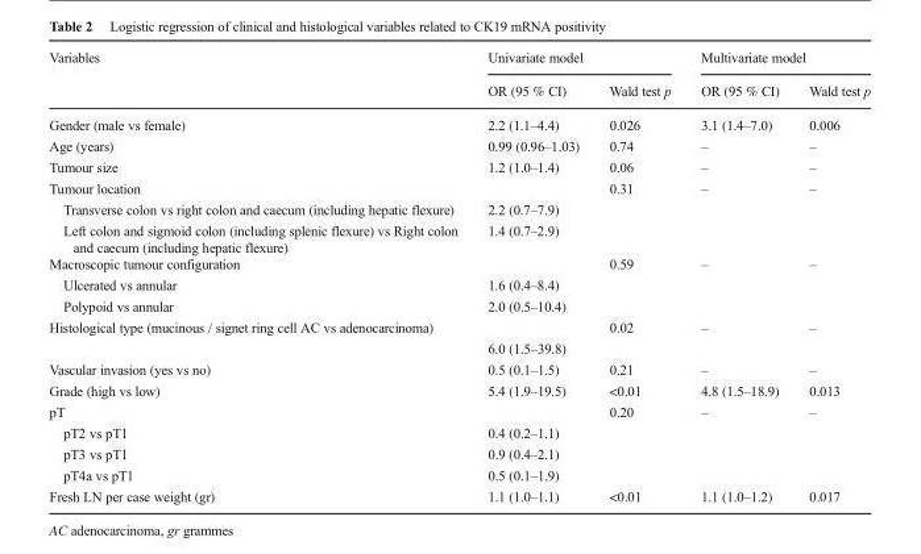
<table><thead><tr><td rowspan="2">Variables</td><td colspan="2">Univariate model</td><td colspan="2">Multivariate model</td></tr><tr><td>OR (95 % CI)</td><td>Wald test p</td><td>OR (95 % CI)</td><td>Wald test p</td></tr></thead><tbody><tr><td>Gender (male vs female)</td><td>2.2 (1.1–4.4)</td><td>0.026</td><td>3.1 (1.4–7.0)</td><td>0.006</td></tr><tr><td>Age (years)</td><td>0.99 (0.96–1.03)</td><td>0.74</td><td>–</td><td>–</td></tr><tr><td>Tumour size</td><td>1.2 (1.0–1.4)</td><td>0.06</td><td>–</td><td>–</td></tr><tr><td colspan="2">Tumour location</td><td>0.31</td><td>–</td><td>–</td></tr><tr><td>Transverse colon vs right colon and caecum (including hepatic flexure)</td><td>2.2 (0.7–7.9)</td><td></td><td></td><td></td></tr><tr><td>Left colon and sigmoid colon (including splenic flexure) vs Right colon and caecum (including hepatic flexure)</td><td>1.4 (0.7–2.9)</td><td></td><td></td><td></td></tr><tr><td colspan="2">Macroscopic tumour configuration</td><td>0.59</td><td>–</td><td>–</td></tr><tr><td>Ulcerated vs annular</td><td>1.6 (0.4–8.4)</td><td></td><td></td><td></td></tr><tr><td>Polypoid vs annular</td><td>2.0 (0.5–10.4)</td><td></td><td></td><td></td></tr><tr><td colspan="2">Histological type (mucinous / signet ring cell AC vs adenocarcinoma)</td><td>0.02</td><td>–</td><td>–</td></tr><tr><td></td><td>6.0 (1.5–39.8)</td><td></td><td></td><td></td></tr><tr><td>Vascular invasion (yes vs no)</td><td>0.5 (0.1–1.5)</td><td>0.21</td><td>–</td><td>–</td></tr><tr><td>Grade (high vs low)</td><td>5.4 (1.9–19.5)</td><td>&lt;0.01</td><td>4.8 (1.5–18.9)</td><td>0.013</td></tr><tr><td>pT</td><td></td><td>0.20</td><td>–</td><td>–</td></tr><tr><td>pT2 vs pT1</td><td>0.4 (0.2–1.1)</td><td></td><td></td><td></td></tr><tr><td>pT3 vs pT1</td><td>0.9 (0.4–2.1)</td><td></td><td></td><td></td></tr><tr><td>pT4a vs pT1</td><td>0.5 (0.1–1.9)</td><td></td><td></td><td></td></tr><tr><td>Fresh LN per case weight (gr)</td><td>1.1 (1.0–1.1)</td><td>&lt;0.01</td><td>1.1 (1.0–1.2)</td><td>0.017</td></tr></tbody></table>